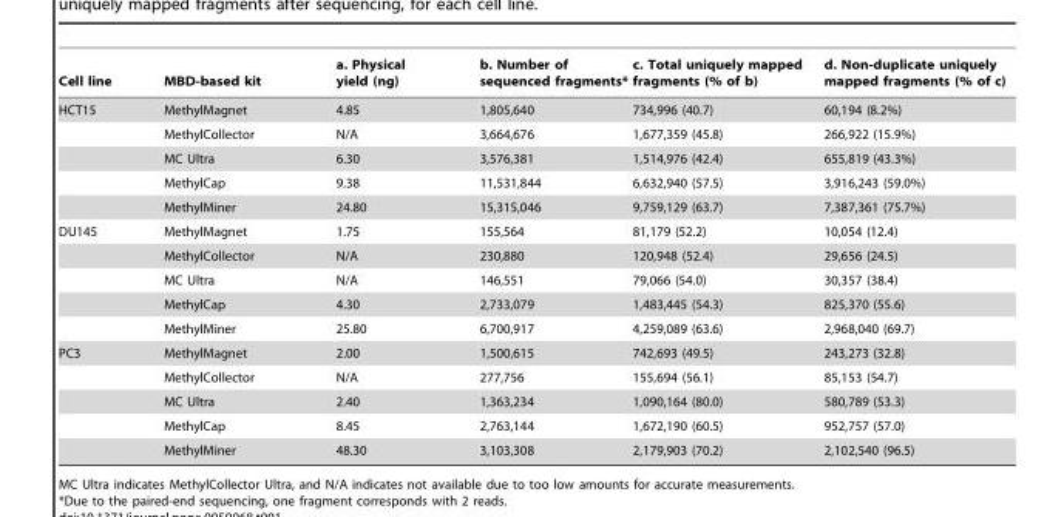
<table><thead><tr><td>Cell line</td><td>MBD-based kit</td><td>a. Physical yield (ng)</td><td>b. Number of sequenced fragments*</td><td>c. Total uniquely mapped fragments (% of b)</td><td>d. Non-duplicate uniquely mapped fragments (% of c)</td></tr></thead><tbody><tr><td rowspan="5">HCT15</td><td>MethylMagnet</td><td>4.85</td><td>1,805,640</td><td>734,996 (40.7)</td><td>60,194 (8.2%)</td></tr><tr><td>MethylCollector</td><td>N/A</td><td>3,664,676</td><td>1,677,359 (45.8)</td><td>266,922 (15.9%)</td></tr><tr><td>MC Ultra</td><td>6.30</td><td>3,576,381</td><td>1,514,976 (42.4)</td><td>655,819 (43.3%)</td></tr><tr><td>MethylCap</td><td>9.38</td><td>11,531,844</td><td>6,632,940 (57.5)</td><td>3,916,243 (59.0%)</td></tr><tr><td>MethylMiner</td><td>24.80</td><td>15,315,046</td><td>9,759,129 (63.7)</td><td>7,387,361 (75.7%)</td></tr><tr><td rowspan="5">DU145</td><td>MethylMagnet</td><td>1.75</td><td>155,564</td><td>81,179 (52.2)</td><td>10,054 (12.4)</td></tr><tr><td>MethylCollector</td><td>N/A</td><td>230,880</td><td>120,948 (52.4)</td><td>29,656 (24.5)</td></tr><tr><td>MC Ultra</td><td>N/A</td><td>146,551</td><td>79,066 (54.0)</td><td>30,357 (38.4)</td></tr><tr><td>MethylCap</td><td>4.30</td><td>2,733,079</td><td>1,483,445 (54.3)</td><td>825,370 (55.6)</td></tr><tr><td>MethylMiner</td><td>25.80</td><td>6,700,917</td><td>4,259,089 (63.6)</td><td>2,968,040 (69.7)</td></tr><tr><td rowspan="5">PC3</td><td>MethylMagnet</td><td>2.00</td><td>1,500,615</td><td>742,693 (49.5)</td><td>243,273 (32.8)</td></tr><tr><td>MethylCollector</td><td>N/A</td><td>277,756</td><td>155,694 (56.1)</td><td>85,153 (54.7)</td></tr><tr><td>MC Ultra</td><td>2.40</td><td>1,363,234</td><td>1,090,164 (80.0)</td><td>580,789 (53.3)</td></tr><tr><td>MethylCap</td><td>8.45</td><td>2,763,144</td><td>1,672,190 (60.5)</td><td>952,757 (57.0)</td></tr><tr><td>MethylMiner</td><td>48.30</td><td>3,103,308</td><td>2,179,903 (70.2)</td><td>2,102,540 (96.5)</td></tr></tbody></table>